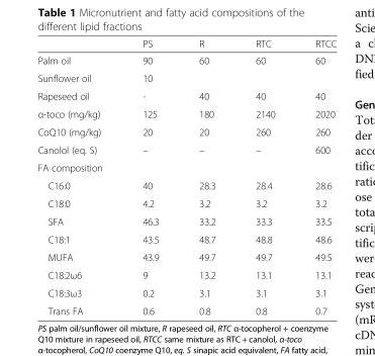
<table><thead><tr><td></td><td>PS</td><td>R</td><td>RTC</td><td>RTCC</td></tr></thead><tbody><tr><td>Palm oil</td><td>90</td><td>60</td><td>60</td><td>60</td></tr><tr><td>Sunflower oil</td><td>10</td><td></td><td></td><td></td></tr><tr><td>Rapeseed oil</td><td>-</td><td>40</td><td>40</td><td>40</td></tr><tr><td>α-toco (mg/kg)</td><td>125</td><td>180</td><td>2140</td><td>2020</td></tr><tr><td>CoQ10 (mg/kg)</td><td>20</td><td>20</td><td>260</td><td>260</td></tr><tr><td>Canolol (eq. S)</td><td>–</td><td>–</td><td>–</td><td>600</td></tr><tr><td colspan="5">FA composition</td></tr><tr><td>C16:0</td><td>40</td><td>28.3</td><td>28.4</td><td>28.6</td></tr><tr><td>C18:0</td><td>4.2</td><td>3.2</td><td>3.2</td><td>3.2</td></tr><tr><td>SFA</td><td>46.3</td><td>33.2</td><td>33.3</td><td>33.5</td></tr><tr><td>C18:1</td><td>43.5</td><td>48.7</td><td>48.8</td><td>48.6</td></tr><tr><td>MUFA</td><td>43.9</td><td>49.7</td><td>49.7</td><td>49.5</td></tr><tr><td>C18:2ω6</td><td>9</td><td>13.2</td><td>13.1</td><td>13.1</td></tr><tr><td>C18:3ω3</td><td>0.2</td><td>3.1</td><td>3.1</td><td>3.1</td></tr><tr><td>Trans FA</td><td>0.6</td><td>0.8</td><td>0.8</td><td>0.7</td></tr></tbody></table>